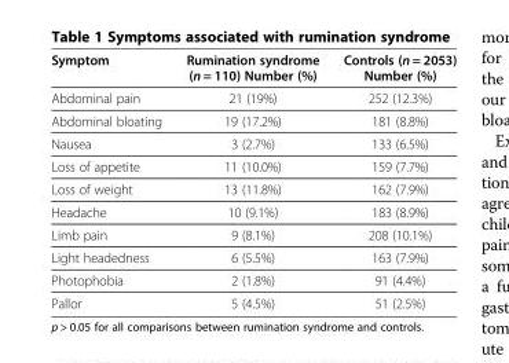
<table><thead><tr><td>Symptom</td><td>Rumination syndrome (n = 110) Number (%)</td><td>Controls (n = 2053) Number (%)</td></tr></thead><tbody><tr><td>Abdominal pain</td><td>21 (19%)</td><td>252 (12.3%)</td></tr><tr><td>Abdominal bloating</td><td>19 (17.2%)</td><td>181 (8.8%)</td></tr><tr><td>Nausea</td><td>3 (2.7%)</td><td>133 (6.5%)</td></tr><tr><td>Loss of appetite</td><td>11 (10.0%)</td><td>159 (7.7%)</td></tr><tr><td>Loss of weight</td><td>13 (11.8%)</td><td>162 (7.9%)</td></tr><tr><td>Headache</td><td>10 (9.1%)</td><td>183 (8.9%)</td></tr><tr><td>Limb pain</td><td>9 (8.1%)</td><td>208 (10.1%)</td></tr><tr><td>Light headedness</td><td>6 (5.5%)</td><td>163 (7.9%)</td></tr><tr><td>Photophobia</td><td>2 (1.8%)</td><td>91 (4.4%)</td></tr><tr><td>Pallor</td><td>5 (4.5%)</td><td>51 (2.5%)</td></tr></tbody></table>